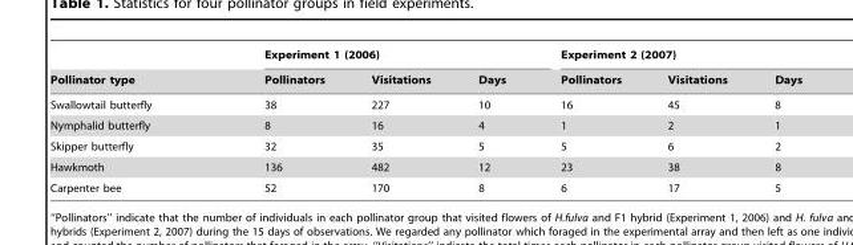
<table><thead><tr><td rowspan="2">Pollinator type</td><td colspan="3">Experiment 1 (2006)</td><td colspan="3">Experiment 2 (2007)</td></tr><tr><td>Pollinators</td><td>Visitations</td><td>Days</td><td>Pollinators</td><td>Visitations</td><td>Days</td></tr></thead><tbody><tr><td>Swallowtail butterfly</td><td>38</td><td>227</td><td>10</td><td>16</td><td>45</td><td>8</td></tr><tr><td>Nymphalid butterfly</td><td>8</td><td>16</td><td>4</td><td>1</td><td>2</td><td>1</td></tr><tr><td>Skipper butterfly</td><td>32</td><td>35</td><td>5</td><td>5</td><td>6</td><td>2</td></tr><tr><td>Hawkmoth</td><td>136</td><td>482</td><td>12</td><td>23</td><td>38</td><td>8</td></tr><tr><td>Carpenter bee</td><td>52</td><td>170</td><td>8</td><td>6</td><td>17</td><td>5</td></tr></tbody></table>